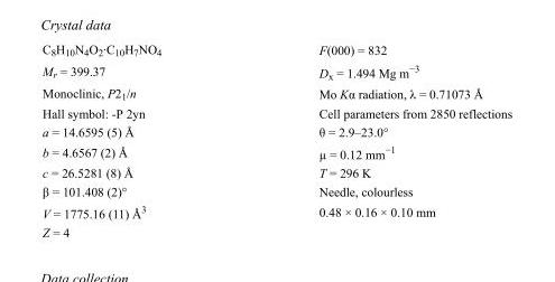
<table><tbody><tr><td>C<sub>8</sub>H<sub>10</sub>N<sub>4</sub>O<sub>2</sub>·C<sub>10</sub>H<sub>7</sub>NO<sub>4</sub></td><td>F(000) = 832</td></tr><tr><td>M<sub>r</sub> = 399.37</td><td>D<sub>x</sub> = 1.494 Mg m<sup>−3</sup></td></tr><tr><td>Monoclinic, P2<sub>1</sub>/n</td><td>Mo Kα radiation, λ = 0.71073 Å</td></tr><tr><td>Hall symbol: -P 2yn</td><td>Cell parameters from 2850 reflections</td></tr><tr><td>a = 14.6595 (5) Å</td><td>θ = 2.9–23.0°</td></tr><tr><td>b = 4.6567 (2) Å</td><td>µ = 0.12 mm<sup>−1</sup></td></tr><tr><td>c = 26.5281 (8) Å</td><td>T = 296 K</td></tr><tr><td>β = 101.408 (2)°</td><td>Needle, colourless</td></tr><tr><td>V = 1775.16 (11) Å<sup>3</sup></td><td>0.48 × 0.16 × 0.10 mm</td></tr><tr><td>Z = 4</td><td></td></tr></tbody></table>